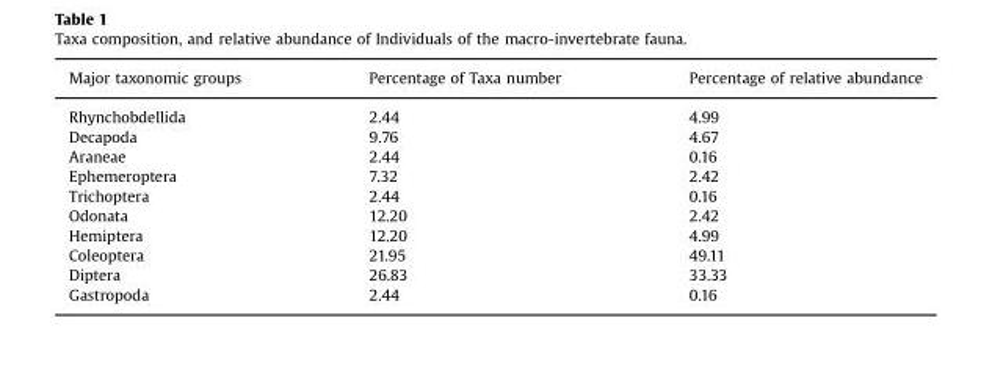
<table><thead><tr><td>Major taxonomic groups</td><td>Percentage of Taxa number</td><td>Percentage of relative abundance</td></tr></thead><tbody><tr><td>Rhynchobdellida</td><td>2.44</td><td>4.99</td></tr><tr><td>Decapoda</td><td>9.76</td><td>4.67</td></tr><tr><td>Araneae</td><td>2.44</td><td>0.16</td></tr><tr><td>Ephemeroptera</td><td>7.32</td><td>2.42</td></tr><tr><td>Trichoptera</td><td>2.44</td><td>0.16</td></tr><tr><td>Odonata</td><td>12.20</td><td>2.42</td></tr><tr><td>Hemiptera</td><td>12.20</td><td>4.99</td></tr><tr><td>Coleoptera</td><td>21.95</td><td>49.11</td></tr><tr><td>Diptera</td><td>26.83</td><td>33.33</td></tr><tr><td>Gastropoda</td><td>2.44</td><td>0.16</td></tr></tbody></table>